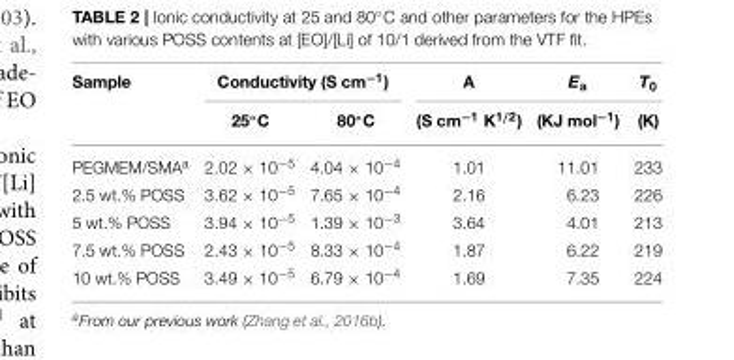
<table><thead><tr><td rowspan="2">Sample</td><td colspan="2">Conductivity (S cm<sup>−1</sup>)</td><td rowspan="2">A (S cm<sup>−1</sup> K<sup>1/2</sup>)</td><td rowspan="2">E<sub>a</sub> (KJ mol<sup>−1</sup>)</td><td rowspan="2">T<sub>0</sub> (K)</td></tr><tr><td>25◦C</td><td>80◦C</td></tr></thead><tbody><tr><td>PEGMEM/SMA<sup>a</sup></td><td>2.02 × 10<sup>−5</sup></td><td>4.04 × 10<sup>−4</sup></td><td>1.01</td><td>11.01</td><td>233</td></tr><tr><td>2.5 wt.% POSS</td><td>3.62 × 10<sup>−5</sup></td><td>7.65 × 10<sup>−4</sup></td><td>2.16</td><td>6.23</td><td>226</td></tr><tr><td>5 wt.% POSS</td><td>3.94 × 10<sup>−5</sup></td><td>1.39 × 10<sup>−3</sup></td><td>3.64</td><td>4.01</td><td>213</td></tr><tr><td>7.5 wt.% POSS</td><td>2.43 × 10<sup>−5</sup></td><td>8.33 × 10<sup>−4</sup></td><td>1.87</td><td>6.22</td><td>219</td></tr><tr><td>10 wt.% POSS</td><td>3.49 × 10<sup>−5</sup></td><td>6.79 × 10<sup>−4</sup></td><td>1.69</td><td>7.35</td><td>224</td></tr></tbody></table>